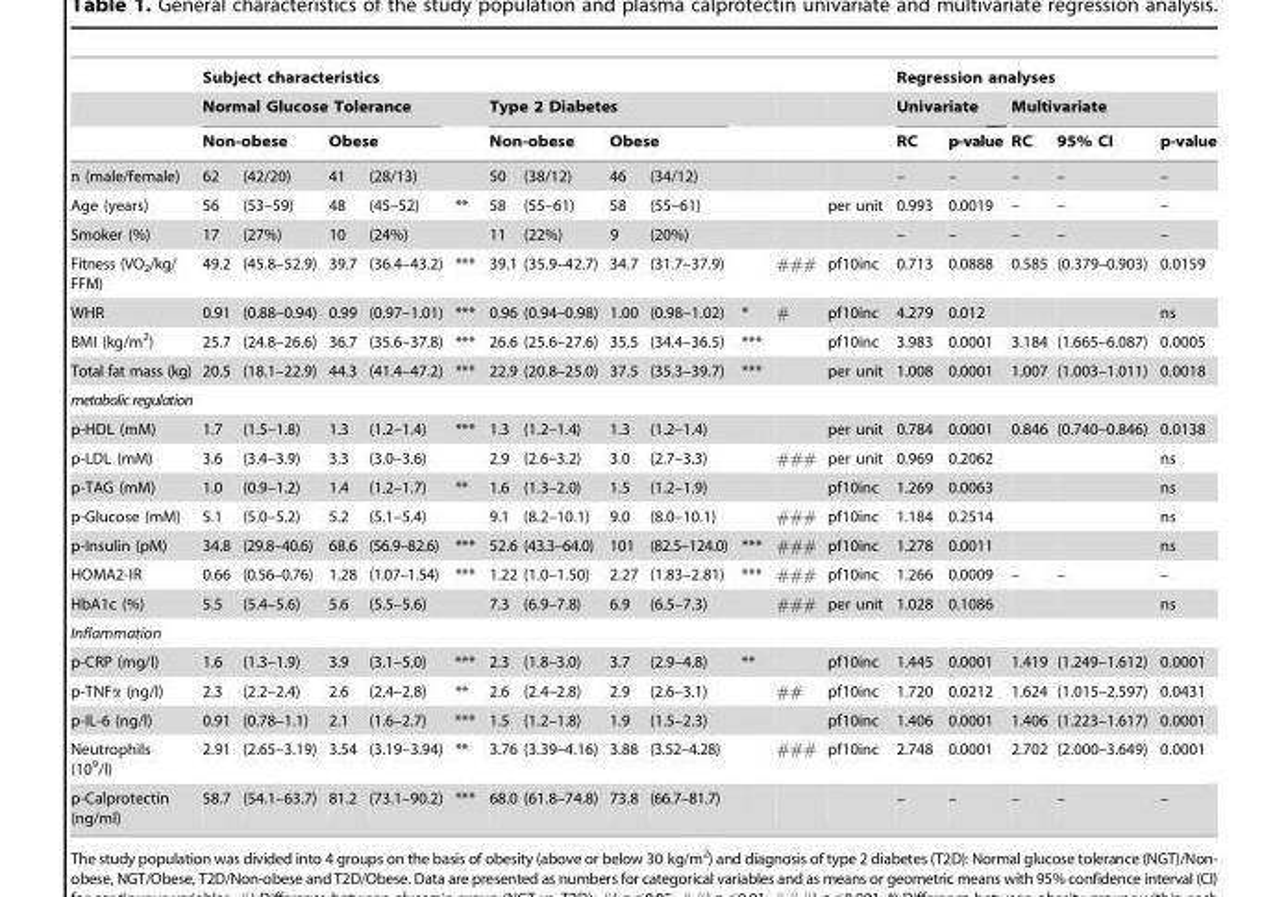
<table><thead><tr><td rowspan="4">n (male/female)</td><td colspan="9">Subject characteristics</td><td rowspan="4"></td><td rowspan="4"></td><td rowspan="4"></td><td colspan="5">Regression analyses</td></tr><tr><td colspan="4">Normal Glucose Tolerance</td><td rowspan="3"></td><td colspan="4">Type 2 Diabetes</td><td colspan="2">Univariate</td><td colspan="3">Multivariate</td></tr><tr><td colspan="2">Non-obese</td><td colspan="2">Obese</td><td colspan="2">Non-obese</td><td colspan="2">Obese</td><td rowspan="2">RC –</td><td rowspan="2">p-value –</td><td rowspan="2">RC –</td><td rowspan="2">95% CI –</td><td rowspan="2">p-value –</td></tr><tr><td>62</td><td>(42/20)</td><td>41</td><td>(28/13)</td><td>50</td><td>(38/12)</td><td>46</td><td>(34/12)</td></tr></thead><tbody><tr><td>Age (years)</td><td>56</td><td>(53–59)</td><td>48</td><td>(45–52)</td><td>**</td><td>58</td><td>(55–61)</td><td>58</td><td>(55–61)</td><td></td><td></td><td>per unit</td><td>0.993</td><td>0.0019</td><td>–</td><td>–</td><td>–</td></tr><tr><td>Smoker (%)</td><td>17</td><td>(27%)</td><td>10</td><td>(24%)</td><td></td><td>11</td><td>(22%)</td><td>9</td><td>(20%)</td><td></td><td></td><td></td><td>–</td><td>–</td><td>–</td><td>–</td><td>–</td></tr><tr><td>Fitness (VO<sub>2</sub>/kg/ FFM)</td><td>49.2</td><td>(45.8–52.9)</td><td>39.7</td><td>(36.4–43.2)</td><td>***</td><td>39.1</td><td>(35.9–42.7)</td><td>34.7</td><td>(31.7–37.9)</td><td></td><td>###</td><td>pf10inc</td><td>0.713</td><td>0.0888</td><td>0.585</td><td>(0.379–0.903)</td><td>0.0159</td></tr><tr><td>WHR</td><td>0.91</td><td>(0.88–0.94)</td><td>0.99</td><td>(0.97–1.01)</td><td>***</td><td>0.96</td><td>(0.94–0.98)</td><td>1.00</td><td>(0.98–1.02)</td><td>*</td><td>#</td><td>pf10inc</td><td>4.279</td><td>0.012</td><td></td><td></td><td>ns</td></tr><tr><td>BMI (kg/m<sup>2</sup>)</td><td>25.7</td><td>(24.8–26.6)</td><td>36.7</td><td>(35.6–37.8)</td><td>***</td><td>26.6</td><td>(25.6–27.6)</td><td>35.5</td><td>(34.4–36.5)</td><td>***</td><td></td><td>pf10inc</td><td>3.983</td><td>0.0001</td><td>3.184</td><td>(1.665–6.087)</td><td>0.0005</td></tr><tr><td>Total fat mass (kg)</td><td>20.5</td><td>(18.1–22.9)</td><td>44.3</td><td>(41.4–47.2)</td><td>***</td><td>22.9</td><td>(20.8–25.0)</td><td>37.5</td><td>(35.3–39.7)</td><td>***</td><td></td><td>per unit</td><td>1.008</td><td>0.0001</td><td>1.007</td><td>(1.003–1.011)</td><td>0.0018</td></tr><tr><td colspan="18">metabolic regulation</td></tr><tr><td>p-HDL (mM)</td><td>1.7</td><td>(1.5–1.8)</td><td>1.3</td><td>(1.2–1.4)</td><td>***</td><td>1.3</td><td>(1.2–1.4)</td><td>1.3</td><td>(1.2–1.4)</td><td></td><td></td><td>per unit</td><td>0.784</td><td>0.0001</td><td>0.846</td><td>(0.740–0.846)</td><td>0.0138</td></tr><tr><td>p-LDL (mM)</td><td>3.6</td><td>(3.4–3.9)</td><td>3.3</td><td>(3.0–3.6)</td><td></td><td>2.9</td><td>(2.6–3.2)</td><td>3.0</td><td>(2.7–3.3)</td><td></td><td>###</td><td>per unit</td><td>0.969</td><td>0.2062</td><td></td><td></td><td>ns</td></tr><tr><td>p-TAG (mM)</td><td>1.0</td><td>(0.9–1.2)</td><td>1.4</td><td>(1.2–1.7)</td><td>**</td><td>1.6</td><td>(1.3–2.0)</td><td>1.5</td><td>(1.2–1.9)</td><td></td><td></td><td>pf10inc</td><td>1.269</td><td>0.0063</td><td></td><td></td><td>ns</td></tr><tr><td>p-Glucose (mM)</td><td>5.1</td><td>(5.0–5.2)</td><td>5.2</td><td>(5.1–5.4)</td><td></td><td>9.1</td><td>(8.2–10.1)</td><td>9.0</td><td>(8.0–10.1)</td><td></td><td>###</td><td>pf10inc</td><td>1.184</td><td>0.2514</td><td></td><td></td><td>ns</td></tr><tr><td>p-Insulin (pM)</td><td>34.8</td><td>(29.8–40.6)</td><td>68.6</td><td>(56.9–82.6)</td><td>***</td><td>52.6</td><td>(43.3–64.0)</td><td>101</td><td>(82.5–124.0)</td><td>***</td><td>###</td><td>pf10inc</td><td>1.278</td><td>0.0011</td><td></td><td></td><td>ns</td></tr><tr><td>HOMA2-IR</td><td>0.66</td><td>(0.56–0.76)</td><td>1.28</td><td>(1.07–1.54)</td><td>***</td><td>1.22</td><td>(1.0–1.50)</td><td>2.27</td><td>(1.83–2.81)</td><td>***</td><td>###</td><td>pf10inc</td><td>1.266</td><td>0.0009</td><td>–</td><td>–</td><td>–</td></tr><tr><td>HbA1c (%)</td><td>5.5</td><td>(5.4–5.6)</td><td>5.6</td><td>(5.5–5.6)</td><td></td><td>7.3</td><td>(6.9–7.8)</td><td>6.9</td><td>(6.5–7.3)</td><td></td><td>###</td><td>per unit</td><td>1.028</td><td>0.1086</td><td></td><td></td><td>ns</td></tr><tr><td colspan="18">Inflammation</td></tr><tr><td>p-CRP (mg/l)</td><td>1.6</td><td>(1.3–1.9)</td><td>3.9</td><td>(3.1–5.0)</td><td>***</td><td>2.3</td><td>(1.8–3.0)</td><td>3.7</td><td>(2.9–4.8)</td><td>**</td><td></td><td>pf10inc</td><td>1.445</td><td>0.0001</td><td>1.419</td><td>(1.249–1.612)</td><td>0.0001</td></tr><tr><td>p-TNFα (ng/l)</td><td>2.3</td><td>(2.2–2.4)</td><td>2.6</td><td>(2.4–2.8)</td><td>**</td><td>2.6</td><td>(2.4–2.8)</td><td>2.9</td><td>(2.6–3.1)</td><td></td><td>##</td><td>pf10inc</td><td>1.720</td><td>0.0212</td><td>1.624</td><td>(1.015–2.597)</td><td>0.0431</td></tr><tr><td>p-IL-6 (ng/l)</td><td>0.91</td><td>(0.78–1.1)</td><td>2.1</td><td>(1.6–2.7)</td><td>***</td><td>1.5</td><td>(1.2–1.8)</td><td>1.9</td><td>(1.5–2.3)</td><td></td><td></td><td>pf10inc</td><td>1.406</td><td>0.0001</td><td>1.406</td><td>(1.223–1.617)</td><td>0.0001</td></tr><tr><td>Neutrophils (10<sup>9</sup>/l)</td><td>2.91</td><td>(2.65–3.19)</td><td>3.54</td><td>(3.19–3.94)</td><td>**</td><td>3.76</td><td>(3.39–4.16)</td><td>3.88</td><td>(3.52–4.28)</td><td></td><td>###</td><td>pf10inc</td><td>2.748</td><td>0.0001</td><td>2.702</td><td>(2.000–3.649)</td><td>0.0001</td></tr><tr><td>p-Calprotectin (ng/ml)</td><td>58.7</td><td>(54.1–63.7)</td><td>81.2</td><td>(73.1–90.2)</td><td>***</td><td>68.0</td><td>(61.8–74.8)</td><td>73.8</td><td>(66.7–81.7)</td><td></td><td></td><td></td><td>–</td><td>–</td><td>–</td><td>–</td><td>–</td></tr></tbody></table>